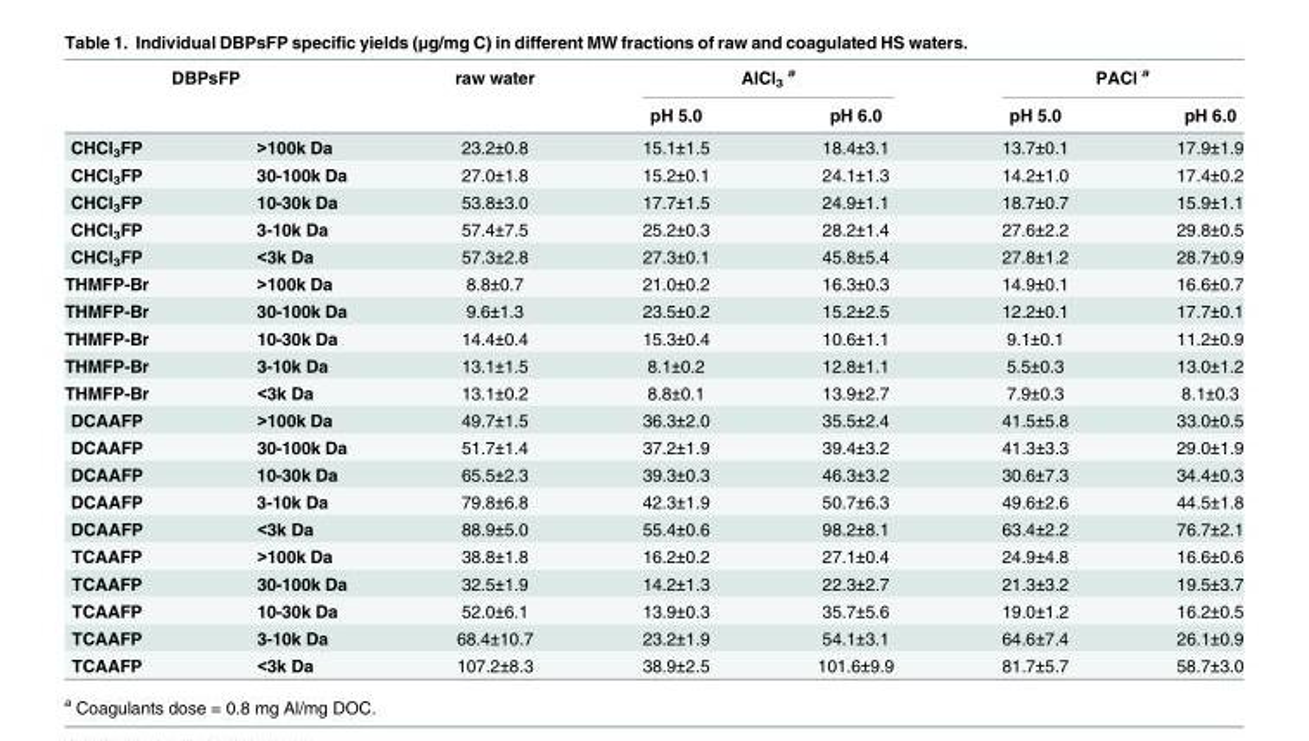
<table><thead><tr><td rowspan="2" colspan="2">DBPsFP</td><td rowspan="3">raw water 23.2±0.8</td><td colspan="2">AlCl<sub>3</sub> <sup>a</sup></td><td colspan="2">PACl <sup>a</sup></td></tr><tr><td rowspan="2">pH 5.0 15.1±1.5</td><td rowspan="2">pH 6.0 18.4±3.1</td><td rowspan="2">pH 5.0 13.7±0.1</td><td rowspan="2">pH 6.0 17.9±1.9</td></tr><tr><td>CHCl<sub>3</sub>FP</td><td>&gt;100k Da</td></tr></thead><tbody><tr><td>CHCl<sub>3</sub>FP</td><td>30-100k Da</td><td>27.0±1.8</td><td>15.2±0.1</td><td>24.1±1.3</td><td>14.2±1.0</td><td>17.4±0.2</td></tr><tr><td>CHCl<sub>3</sub>FP</td><td>10-30k Da</td><td>53.8±3.0</td><td>17.7±1.5</td><td>24.9±1.1</td><td>18.7±0.7</td><td>15.9±1.1</td></tr><tr><td>CHCl<sub>3</sub>FP</td><td>3-10k Da</td><td>57.4±7.5</td><td>25.2±0.3</td><td>28.2±1.4</td><td>27.6±2.2</td><td>29.8±0.5</td></tr><tr><td>CHCl<sub>3</sub>FP</td><td>&lt;3k Da</td><td>57.3±2.8</td><td>27.3±0.1</td><td>45.8±5.4</td><td>27.8±1.2</td><td>28.7±0.9</td></tr><tr><td>THMFP-Br</td><td>&gt;100k Da</td><td>8.8±0.7</td><td>21.0±0.2</td><td>16.3±0.3</td><td>14.9±0.1</td><td>16.6±0.7</td></tr><tr><td>THMFP-Br</td><td>30-100k Da</td><td>9.6±1.3</td><td>23.5±0.2</td><td>15.2±2.5</td><td>12.2±0.1</td><td>17.7±0.1</td></tr><tr><td>THMFP-Br</td><td>10-30k Da</td><td>14.4±0.4</td><td>15.3±0.4</td><td>10.6±1.1</td><td>9.1±0.1</td><td>11.2±0.9</td></tr><tr><td>THMFP-Br</td><td>3-10k Da</td><td>13.1±1.5</td><td>8.1±0.2</td><td>12.8±1.1</td><td>5.5±0.3</td><td>13.0±1.2</td></tr><tr><td>THMFP-Br</td><td>&lt;3k Da</td><td>13.1±0.2</td><td>8.8±0.1</td><td>13.9±2.7</td><td>7.9±0.3</td><td>8.1±0.3</td></tr><tr><td>DCAAFP</td><td>&gt;100k Da</td><td>49.7±1.5</td><td>36.3±2.0</td><td>35.5±2.4</td><td>41.5±5.8</td><td>33.0±0.5</td></tr><tr><td>DCAAFP</td><td>30-100k Da</td><td>51.7±1.4</td><td>37.2±1.9</td><td>39.4±3.2</td><td>41.3±3.3</td><td>29.0±1.9</td></tr><tr><td>DCAAFP</td><td>10-30k Da</td><td>65.5±2.3</td><td>39.3±0.3</td><td>46.3±3.2</td><td>30.6±7.3</td><td>34.4±0.3</td></tr><tr><td>DCAAFP</td><td>3-10k Da</td><td>79.8±6.8</td><td>42.3±1.9</td><td>50.7±6.3</td><td>49.6±2.6</td><td>44.5±1.8</td></tr><tr><td>DCAAFP</td><td>&lt;3k Da</td><td>88.9±5.0</td><td>55.4±0.6</td><td>98.2±8.1</td><td>63.4±2.2</td><td>76.7±2.1</td></tr><tr><td>TCAAFP</td><td>&gt;100k Da</td><td>38.8±1.8</td><td>16.2±0.2</td><td>27.1±0.4</td><td>24.9±4.8</td><td>16.6±0.6</td></tr><tr><td>TCAAFP</td><td>30-100k Da</td><td>32.5±1.9</td><td>14.2±1.3</td><td>22.3±2.7</td><td>21.3±3.2</td><td>19.5±3.7</td></tr><tr><td>TCAAFP</td><td>10-30k Da</td><td>52.0±6.1</td><td>13.9±0.3</td><td>35.7±5.6</td><td>19.0±1.2</td><td>16.2±0.5</td></tr><tr><td>TCAAFP</td><td>3-10k Da</td><td>68.4±10.7</td><td>23.2±1.9</td><td>54.1±3.1</td><td>64.6±7.4</td><td>26.1±0.9</td></tr><tr><td>TCAAFP</td><td>&lt;3k Da</td><td>107.2±8.3</td><td>38.9±2.5</td><td>101.6±9.9</td><td>81.7±5.7</td><td>58.7±3.0</td></tr></tbody></table>